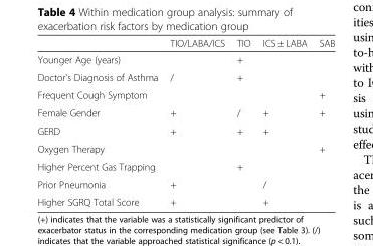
<table><thead><tr><td></td><td>TIO/LABA/ICS</td><td>TIO</td><td>ICS ± LABA</td><td>SAB</td></tr></thead><tbody><tr><td>Younger Age (years)</td><td></td><td>+</td><td></td><td></td></tr><tr><td>Doctor&#x27;s Diagnosis of Asthma</td><td>/</td><td>+</td><td></td><td></td></tr><tr><td>Frequent Cough Symptom</td><td></td><td></td><td></td><td>+</td></tr><tr><td>Female Gender</td><td>+</td><td>/</td><td>+</td><td>+</td></tr><tr><td>GERD</td><td>+</td><td>+</td><td>+</td><td></td></tr><tr><td>Oxygen Therapy</td><td></td><td></td><td></td><td>+</td></tr><tr><td>Higher Percent Gas Trapping</td><td></td><td>+</td><td></td><td></td></tr><tr><td>Prior Pneumonia</td><td>+</td><td></td><td>/</td><td></td></tr><tr><td>Higher SGRQ Total Score</td><td>+</td><td></td><td>+</td><td></td></tr></tbody></table>